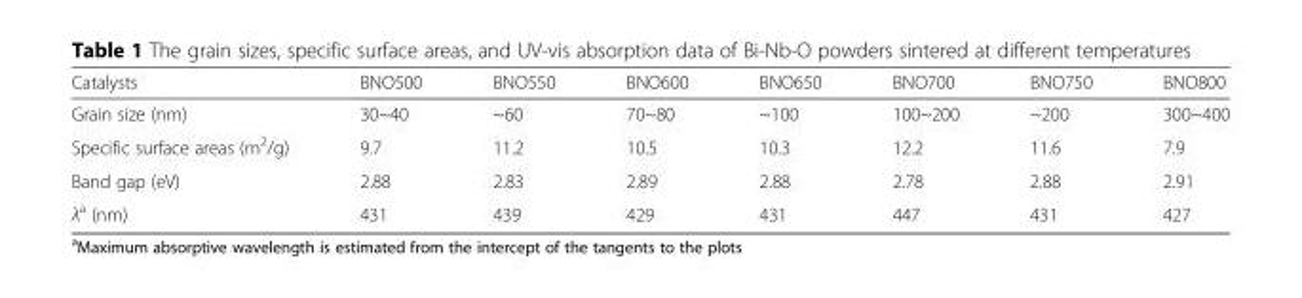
<table><thead><tr><td>Catalysts</td><td>BNO500</td><td>BNO550</td><td>BNO600</td><td>BNO650</td><td>BNO700</td><td>BNO750</td><td>BNO800</td></tr></thead><tbody><tr><td>Grain size (nm)</td><td>30~40</td><td>~60</td><td>70~80</td><td>~100</td><td>100~200</td><td>~200</td><td>300~400</td></tr><tr><td>Specific surface areas (m<sup>2</sup>/g)</td><td>9.7</td><td>11.2</td><td>10.5</td><td>10.3</td><td>12.2</td><td>11.6</td><td>7.9</td></tr><tr><td>Band gap (eV)</td><td>2.88</td><td>2.83</td><td>2.89</td><td>2.88</td><td>2.78</td><td>2.88</td><td>2.91</td></tr><tr><td>λ<sup>a</sup> (nm)</td><td>431</td><td>439</td><td>429</td><td>431</td><td>447</td><td>431</td><td>427</td></tr></tbody></table>